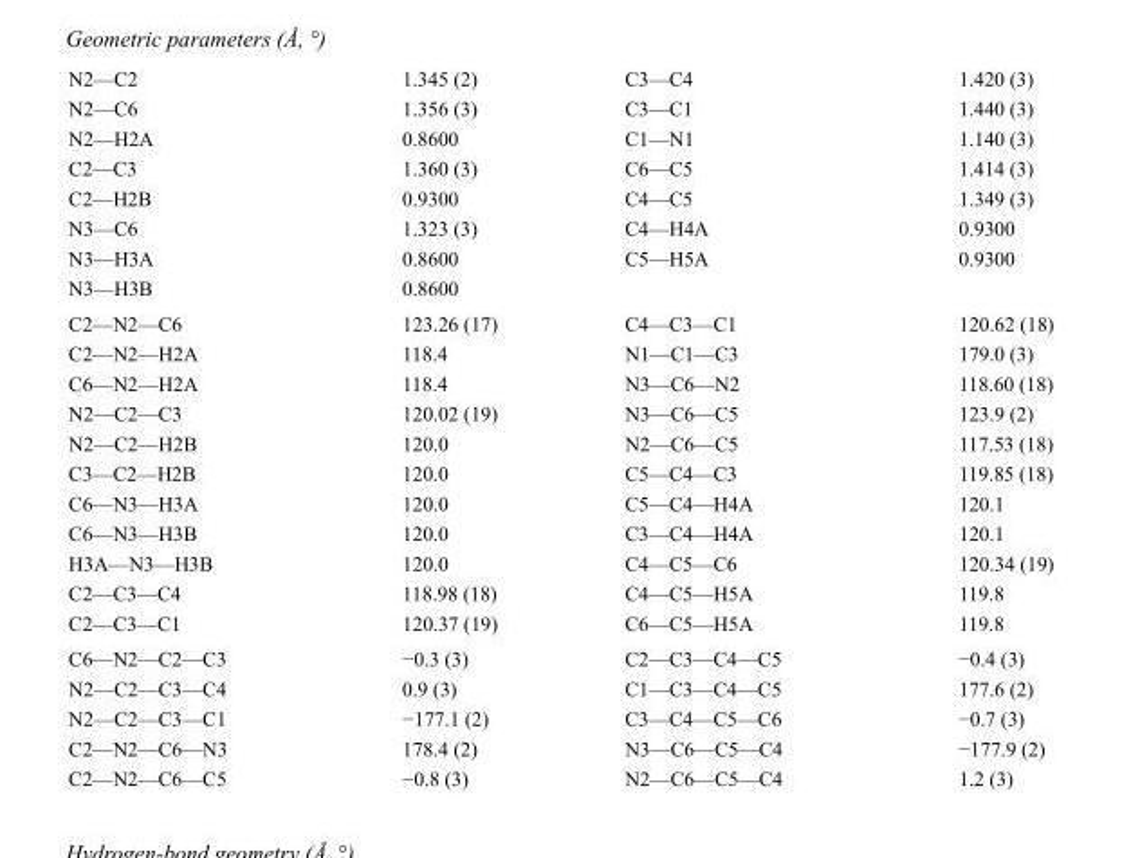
<table><tbody><tr><td>N2—C2</td><td>1.345 (2)</td><td>C3—C4</td><td>1.420 (3)</td></tr><tr><td>N2—C6</td><td>1.356 (3)</td><td>C3—C1</td><td>1.440 (3)</td></tr><tr><td>N2—H2A</td><td>0.8600</td><td>C1—N1</td><td>1.140 (3)</td></tr><tr><td>C2—C3</td><td>1.360 (3)</td><td>C6—C5</td><td>1.414 (3)</td></tr><tr><td>C2—H2B</td><td>0.9300</td><td>C4—C5</td><td>1.349 (3)</td></tr><tr><td>N3—C6</td><td>1.323 (3)</td><td>C4—H4A</td><td>0.9300</td></tr><tr><td>N3—H3A</td><td>0.8600</td><td>C5—H5A</td><td>0.9300</td></tr><tr><td>N3—H3B</td><td>0.8600</td><td></td><td></td></tr><tr><td>C2—N2—C6</td><td>123.26 (17)</td><td>C4—C3—C1</td><td>120.62 (18)</td></tr><tr><td>C2—N2—H2A</td><td>118.4</td><td>N1—C1—C3</td><td>179.0 (3)</td></tr><tr><td>C6—N2—H2A</td><td>118.4</td><td>N3—C6—N2</td><td>118.60 (18)</td></tr><tr><td>N2—C2—C3</td><td>120.02 (19)</td><td>N3—C6—C5</td><td>123.9 (2)</td></tr><tr><td>N2—C2—H2B</td><td>120.0</td><td>N2—C6—C5</td><td>117.53 (18)</td></tr><tr><td>C3—C2—H2B</td><td>120.0</td><td>C5—C4—C3</td><td>119.85 (18)</td></tr><tr><td>C6—N3—H3A</td><td>120.0</td><td>C5—C4—H4A</td><td>120.1</td></tr><tr><td>C6—N3—H3B</td><td>120.0</td><td>C3—C4—H4A</td><td>120.1</td></tr><tr><td>H3A—N3—H3B</td><td>120.0</td><td>C4—C5—C6</td><td>120.34 (19)</td></tr><tr><td>C2—C3—C4</td><td>118.98 (18)</td><td>C4—C5—H5A</td><td>119.8</td></tr><tr><td>C2—C3—C1</td><td>120.37 (19)</td><td>C6—C5—H5A</td><td>119.8</td></tr><tr><td>C6—N2—C2—C3</td><td>−0.3 (3)</td><td>C2—C3—C4—C5</td><td>−0.4 (3)</td></tr><tr><td>N2—C2—C3—C4</td><td>0.9 (3)</td><td>C1—C3—C4—C5</td><td>177.6 (2)</td></tr><tr><td>N2—C2—C3—C1</td><td>−177.1 (2)</td><td>C3—C4—C5—C6</td><td>−0.7 (3)</td></tr><tr><td>C2—N2—C6—N3</td><td>178.4 (2)</td><td>N3—C6—C5—C4</td><td>−177.9 (2)</td></tr><tr><td>C2—N2—C6—C5</td><td>−0.8 (3)</td><td>N2—C6—C5—C4</td><td>1.2 (3)</td></tr></tbody></table>